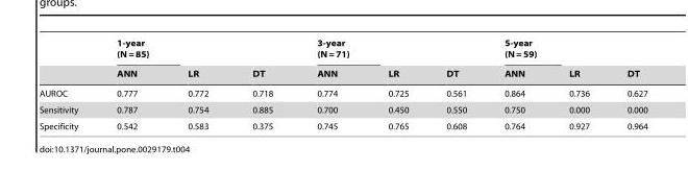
<table><thead><tr><td rowspan="2"></td><td rowspan="2">1-year (N = 85) ANN</td><td rowspan="2">LR</td><td rowspan="2">DT</td><td rowspan="2">3-year (N = 71) ANN</td><td rowspan="2">LR</td><td rowspan="2">DT</td><td rowspan="2">5-year (N = 59) ANN</td><td rowspan="2">LR</td><td rowspan="2">DT</td></tr><tr></tr></thead><tbody><tr><td>AUROC</td><td>0.777</td><td>0.772</td><td>0.718</td><td>0.774</td><td>0.725</td><td>0.561</td><td>0.864</td><td>0.736</td><td>0.627</td></tr><tr><td>Sensitivity</td><td>0.787</td><td>0.754</td><td>0.885</td><td>0.700</td><td>0.450</td><td>0.550</td><td>0.750</td><td>0.000</td><td>0.000</td></tr><tr><td>Specificity</td><td>0.542</td><td>0.583</td><td>0.375</td><td>0.745</td><td>0.765</td><td>0.608</td><td>0.764</td><td>0.927</td><td>0.964</td></tr></tbody></table>